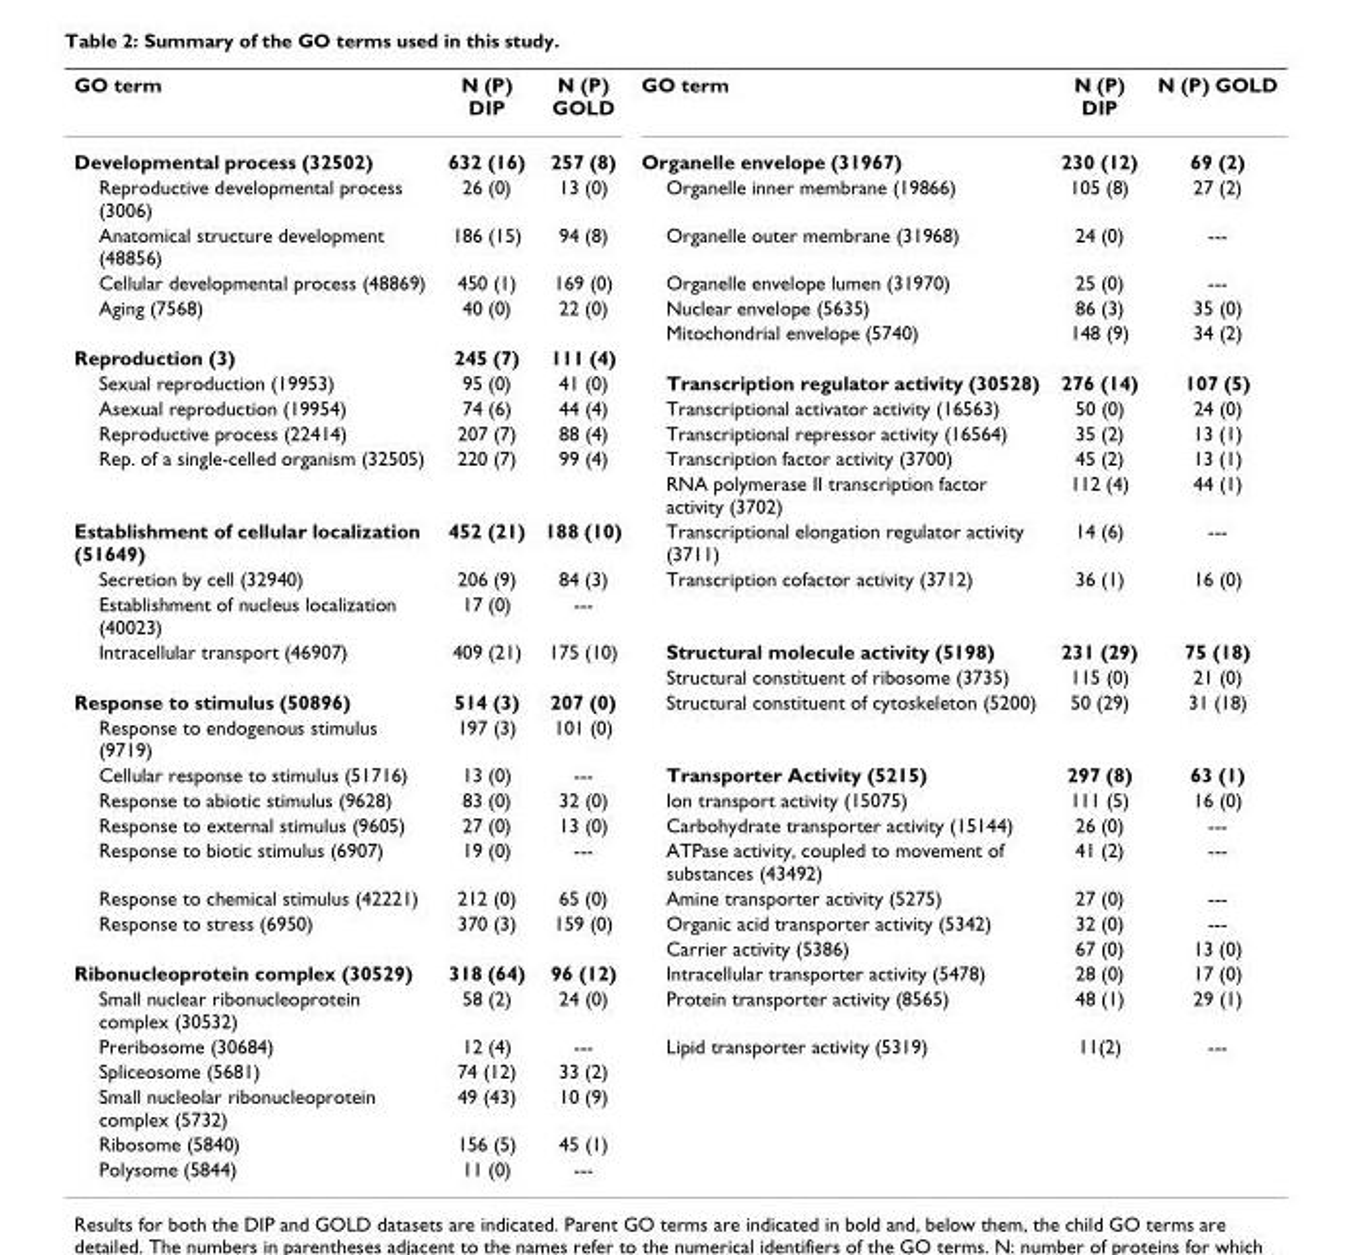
<table><tbody><tr><td>GO term</td><td>N (P) DIP</td><td>N (P) GOLD</td><td>GO term</td><td>N (P) DIP</td><td>N (P) GOLD</td></tr><tr><td>Developmental process (32502)</td><td>632 (16)</td><td>257 (8)</td><td>Organelle envelope (31967)</td><td>230 (12)</td><td>69 (2)</td></tr><tr><td>Reproductive developmental process (3006)</td><td>26 (0)</td><td>13 (0)</td><td>Organelle inner membrane (19866)</td><td>105 (8)</td><td>27 (2)</td></tr><tr><td>Anatomical structure development (48856)</td><td>186 (15)</td><td>94 (8)</td><td>Organelle outer membrane (31968)</td><td>24 (0)</td><td>---</td></tr><tr><td>Cellular developmental process (48869)</td><td>450 (1)</td><td>169 (0)</td><td>Organelle envelope lumen (31970)</td><td>25 (0)</td><td>---</td></tr><tr><td rowspan="2">Aging (7568)</td><td>40 (0)</td><td>22 (0)</td><td>Nuclear envelope (5635)</td><td>86 (3)</td><td>35 (0)</td></tr><tr><td></td><td></td><td>Mitochondrial envelope (5740)</td><td>148 (9)</td><td>34 (2)</td></tr><tr><td>Reproduction (3)</td><td>245 (7)</td><td>111 (4)</td><td></td><td></td><td></td></tr><tr><td>Sexual reproduction (19953)</td><td>95 (0)</td><td>41 (0)</td><td>Transcription regulator activity (30528)</td><td>276 (14)</td><td>107 (5)</td></tr><tr><td>Asexual reproduction (19954)</td><td>74 (6)</td><td>44 (4)</td><td>Transcriptional activator activity (16563)</td><td>50 (0)</td><td>24 (0)</td></tr><tr><td>Reproductive process (22414)</td><td>207 (7)</td><td>88 (4)</td><td>Transcriptional repressor activity (16564)</td><td>35 (2)</td><td>13 (1)</td></tr><tr><td rowspan="2">Rep. of a single-celled organism (32505)</td><td>220 (7)</td><td>99 (4)</td><td>Transcription factor activity (3700)</td><td>45 (2)</td><td>13 (1)</td></tr><tr><td></td><td></td><td>RNA polymerase II transcription factor activity (3702)</td><td>112 (4)</td><td>44 (1)</td></tr><tr><td>Establishment of cellular localization (51649)</td><td>452 (21)</td><td>188 (10)</td><td>Transcriptional elongation regulator activity (3711)</td><td>14 (6)</td><td>---</td></tr><tr><td>Secretion by cell (32940)</td><td>206 (9)</td><td>84 (3)</td><td>Transcription cofactor activity (3712)</td><td>36 (1)</td><td>16 (0)</td></tr><tr><td>Establishment of nucleus localization (40023)</td><td>17 (0)</td><td>---</td><td></td><td></td><td></td></tr><tr><td rowspan="2">Intracellular transport (46907)</td><td>409 (21)</td><td>175 (10)</td><td>Structural molecule activity (5198)</td><td>231 (29)</td><td>75 (18)</td></tr><tr><td></td><td></td><td>Structural constituent of ribosome (3735)</td><td>115 (0)</td><td>21 (0)</td></tr><tr><td>Response to stimulus (50896)</td><td>514 (3)</td><td>207 (0)</td><td>Structural constituent of cytoskeleton (5200)</td><td>50 (29)</td><td>31 (18)</td></tr><tr><td>Response to endogenous stimulus (9719)</td><td>197 (3)</td><td>101 (0)</td><td></td><td></td><td></td></tr><tr><td>Cellular response to stimulus (51716)</td><td>13 (0)</td><td>---</td><td>Transporter Activity (5215)</td><td>297 (8)</td><td>63 (1)</td></tr><tr><td>Response to abiotic stimulus (9628)</td><td>83 (0)</td><td>32 (0)</td><td>Ion transport activity (15075)</td><td>111 (5)</td><td>16 (0)</td></tr><tr><td>Response to external stimulus (9605)</td><td>27 (0)</td><td>13 (0)</td><td>Carbohydrate transporter activity (15144)</td><td>26 (0)</td><td>---</td></tr><tr><td>Response to biotic stimulus (6907)</td><td>19 (0)</td><td>---</td><td>ATPase activity, coupled to movement of substances (43492)</td><td>41 (2)</td><td>---</td></tr><tr><td>Response to chemical stimulus (42221)</td><td>212 (0)</td><td>65 (0)</td><td>Amine transporter activity (5275)</td><td>27 (0)</td><td>---</td></tr><tr><td rowspan="2">Response to stress (6950)</td><td>370 (3)</td><td>159 (0)</td><td>Organic acid transporter activity (5342)</td><td>32 (0)</td><td>---</td></tr><tr><td></td><td></td><td>Carrier activity (5386)</td><td>67 (0)</td><td>13 (0)</td></tr><tr><td>Ribonucleoprotein complex (30529)</td><td>318 (64)</td><td>96 (12)</td><td>Intracellular transporter activity (5478)</td><td>28 (0)</td><td>17 (0)</td></tr><tr><td>Small nuclear ribonucleoprotein complex (30532)</td><td>58 (2)</td><td>24 (0)</td><td>Protein transporter activity (8565)</td><td>48 (1)</td><td>29 (1)</td></tr><tr><td>Preribosome (30684)</td><td>12 (4)</td><td>---</td><td>Lipid transporter activity (5319)</td><td>11(2)</td><td>---</td></tr><tr><td>Spliceosome (5681)</td><td>74 (12)</td><td>33 (2)</td><td></td><td></td><td></td></tr><tr><td>Small nucleolar ribonucleoprotein complex (5732)</td><td>49 (43)</td><td>10 (9)</td><td></td><td></td><td></td></tr><tr><td>Ribosome (5840)</td><td>156 (5)</td><td>45 (1)</td><td></td><td></td><td></td></tr><tr><td>Polysome (5844)</td><td>11 (0)</td><td>---</td><td></td><td></td><td></td></tr></tbody></table>